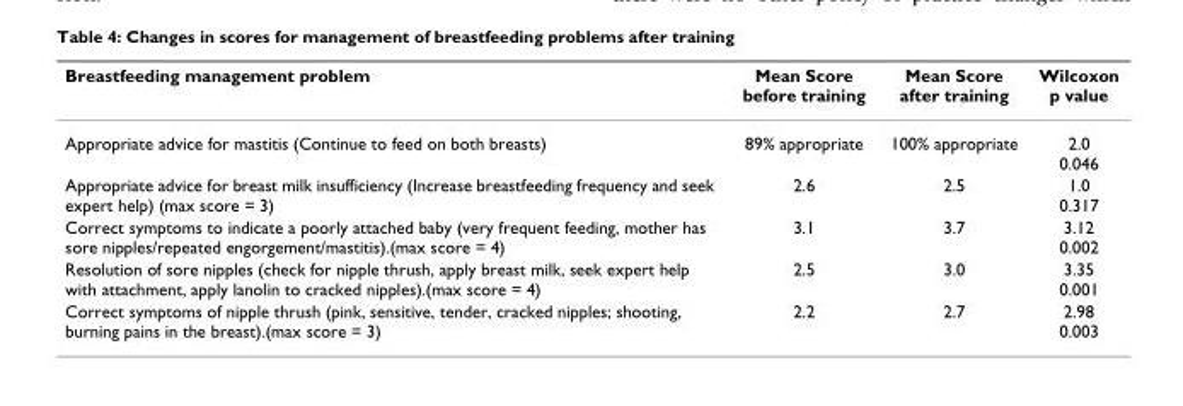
<table><thead><tr><td>Breastfeeding management problem</td><td>Mean Score before training</td><td>Mean Score after training</td><td>Wilcoxon p value</td></tr></thead><tbody><tr><td>Appropriate advice for mastitis (Continue to feed on both breasts)</td><td>89% appropriate</td><td>100% appropriate</td><td>2.0 0.046</td></tr><tr><td>Appropriate advice for breast milk insufficiency (Increase breastfeeding frequency and seek expert help) (max score = 3)</td><td>2.6</td><td>2.5</td><td>1.0 0.317</td></tr><tr><td>Correct symptoms to indicate a poorly attached baby (very frequent feeding, mother has sore nipples/repeated engorgement/mastitis).(max score = 4)</td><td>3.1</td><td>3.7</td><td>3.12 0.002</td></tr><tr><td>Resolution of sore nipples (check for nipple thrush, apply breast milk, seek expert help with attachment, apply lanolin to cracked nipples).(max score = 4)</td><td>2.5</td><td>3.0</td><td>3.35 0.001</td></tr><tr><td>Correct symptoms of nipple thrush (pink, sensitive, tender, cracked nipples; shooting, burning pains in the breast).(max score = 3)</td><td>2.2</td><td>2.7</td><td>2.98 0.003</td></tr></tbody></table>